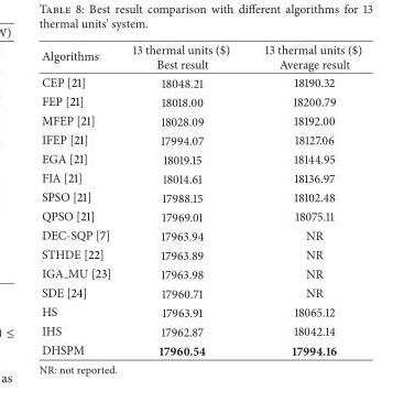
<table><thead><tr><td>Algorithms</td><td>13 thermal units ($) Best result</td><td>13 thermal units ($) Average result</td></tr></thead><tbody><tr><td>CEP [21]</td><td>18048.21</td><td>18190.32</td></tr><tr><td>FEP [21]</td><td>18018.00</td><td>18200.79</td></tr><tr><td>MFEP [21]</td><td>18028.09</td><td>18192.00</td></tr><tr><td>IFEP [21]</td><td>17994.07</td><td>18127.06</td></tr><tr><td>EGA [21]</td><td>18019.15</td><td>18144.95</td></tr><tr><td>FIA [21]</td><td>18014.61</td><td>18136.97</td></tr><tr><td>SPSO [21]</td><td>17988.15</td><td>18102.48</td></tr><tr><td>QPSO [21]</td><td>17969.01</td><td>18075.11</td></tr><tr><td>DEC-SQP [7]</td><td>17963.94</td><td>NR</td></tr><tr><td>STHDE [22]</td><td>17963.89</td><td>NR</td></tr><tr><td>IGA MU [23]</td><td>17963.98</td><td>NR</td></tr><tr><td>SDE [24]</td><td>17960.71</td><td>NR</td></tr><tr><td>HS</td><td>17963.91</td><td>18065.12</td></tr><tr><td>IHS</td><td>17962.87</td><td>18042.14</td></tr><tr><td>DHSPM</td><td>17960.54</td><td>17994.16</td></tr></tbody></table>